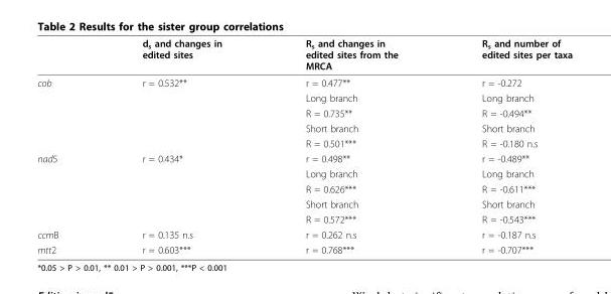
<table><thead><tr><td></td><td>d<sub>s</sub> and changes in edited sites</td><td>R<sub>s</sub> and changes in edited sites from the MRCA</td><td>R<sub>s</sub> and number of edited sites per taxa</td></tr></thead><tbody><tr><td rowspan="5">cob</td><td>r = 0.532**</td><td>r = 0.477**</td><td>r = -0.272</td></tr><tr><td></td><td>Long branch</td><td>Long branch</td></tr><tr><td></td><td>R = 0.735**</td><td>R = -0.494**</td></tr><tr><td></td><td>Short branch</td><td>Short branch</td></tr><tr><td></td><td>R = 0.501***</td><td>R = -0.180 n.s</td></tr><tr><td rowspan="5">nad5</td><td>r = 0.434*</td><td>r = 0.498**</td><td>r = -0.489**</td></tr><tr><td></td><td>Long branch</td><td>Long branch</td></tr><tr><td></td><td>R = 0.626***</td><td>R = -0.611***</td></tr><tr><td></td><td>Short branch</td><td>Short branch</td></tr><tr><td></td><td>R = 0.572***</td><td>R = -0.543***</td></tr><tr><td>ccmB</td><td>r = 0.135 n.s</td><td>r = 0.262 n.s</td><td>r = -0.187 n.s</td></tr><tr><td>mtt2</td><td>r = 0.603***</td><td>r = 0.768***</td><td>r = -0.707***</td></tr></tbody></table>